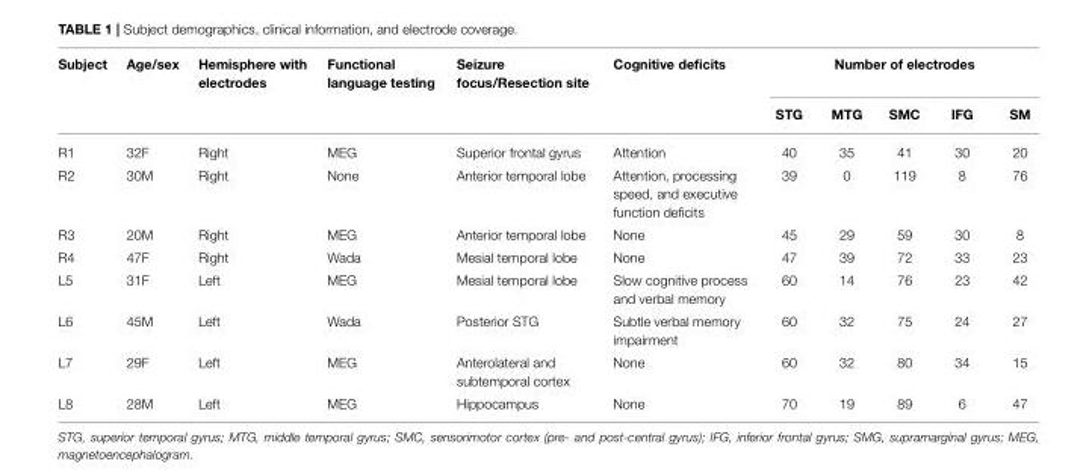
<table><thead><tr><td rowspan="2">Subject</td><td rowspan="2">Age/sex</td><td rowspan="2">Hemisphere with electrodes</td><td rowspan="2">Functional language testing</td><td rowspan="2">Seizure focus/Resection site</td><td rowspan="2">Cognitive deficits</td><td colspan="5">Number of electrodes</td></tr><tr><td>STG</td><td>MTG</td><td>SMC</td><td>IFG</td><td>SM</td></tr></thead><tbody><tr><td>R1</td><td>32F</td><td>Right</td><td>MEG</td><td>Superior frontal gyrus</td><td>Attention</td><td>40</td><td>35</td><td>41</td><td>30</td><td>20</td></tr><tr><td>R2</td><td>30M</td><td>Right</td><td>None</td><td>Anterior temporal lobe</td><td>Attention, processing speed, and executive function deficits</td><td>39</td><td>0</td><td>119</td><td>8</td><td>76</td></tr><tr><td>R3</td><td>20M</td><td>Right</td><td>MEG</td><td>Anterior temporal lobe</td><td>None</td><td>45</td><td>29</td><td>59</td><td>30</td><td>8</td></tr><tr><td>R4</td><td>47F</td><td>Right</td><td>Wada</td><td>Mesial temporal lobe</td><td>None</td><td>47</td><td>39</td><td>72</td><td>33</td><td>23</td></tr><tr><td>L5</td><td>31F</td><td>Left</td><td>MEG</td><td>Mesial temporal lobe</td><td>Slow cognitive process and verbal memory</td><td>60</td><td>14</td><td>76</td><td>23</td><td>42</td></tr><tr><td>L6</td><td>45M</td><td>Left</td><td>Wada</td><td>Posterior STG</td><td>Subtle verbal memory impairment</td><td>60</td><td>32</td><td>75</td><td>24</td><td>27</td></tr><tr><td>L7</td><td>29F</td><td>Left</td><td>MEG</td><td>Anterolateral and subtemporal cortex</td><td>None</td><td>60</td><td>32</td><td>80</td><td>34</td><td>15</td></tr><tr><td>L8</td><td>28M</td><td>Left</td><td>MEG</td><td>Hippocampus</td><td>None</td><td>70</td><td>19</td><td>89</td><td>6</td><td>47</td></tr></tbody></table>